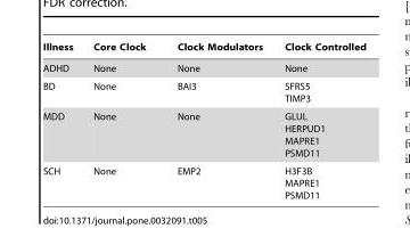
<table><thead><tr><td>Illness</td><td>Core Clock</td><td>Clock Modulators</td><td>Clock Controlled</td></tr></thead><tbody><tr><td>ADHD</td><td>None</td><td>None</td><td>None</td></tr><tr><td>BD</td><td>None</td><td>BAI3</td><td>SFRS5 TIMP3</td></tr><tr><td>MDD</td><td>None</td><td>None</td><td>GLUL HERPUD1 MAPRE1 PSMD11</td></tr><tr><td>SCH</td><td>None</td><td>EMP2</td><td>H3F3B MAPRE1 PSMD11</td></tr></tbody></table>